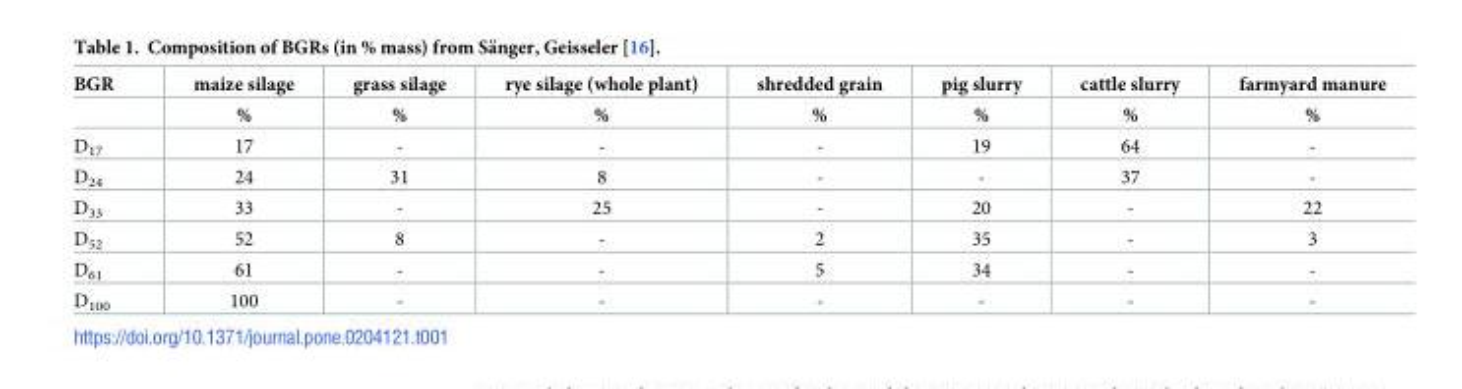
<table><thead><tr><td rowspan="2">BGR</td><td rowspan="2">maize silage %</td><td rowspan="2">grass silage %</td><td rowspan="2">rye silage (whole plant) %</td><td rowspan="2">shredded grain %</td><td rowspan="2">pig slurry %</td><td rowspan="2">cattle slurry %</td><td rowspan="2">farmyard manure %</td></tr><tr></tr></thead><tbody><tr><td>D<sub>17</sub></td><td>17</td><td>-</td><td>-</td><td>-</td><td>19</td><td>64</td><td>-</td></tr><tr><td>D<sub>24</sub></td><td>24</td><td>31</td><td>8</td><td>-</td><td>-</td><td>37</td><td>-</td></tr><tr><td>D<sub>33</sub></td><td>33</td><td>-</td><td>25</td><td>-</td><td>20</td><td>-</td><td>22</td></tr><tr><td>D<sub>52</sub></td><td>52</td><td>8</td><td>-</td><td>2</td><td>35</td><td>-</td><td>3</td></tr><tr><td>D<sub>61</sub></td><td>61</td><td>-</td><td>-</td><td>5</td><td>34</td><td>-</td><td>-</td></tr><tr><td>D<sub>100</sub></td><td>100</td><td>-</td><td>-</td><td>-</td><td>-</td><td>-</td><td>-</td></tr></tbody></table>